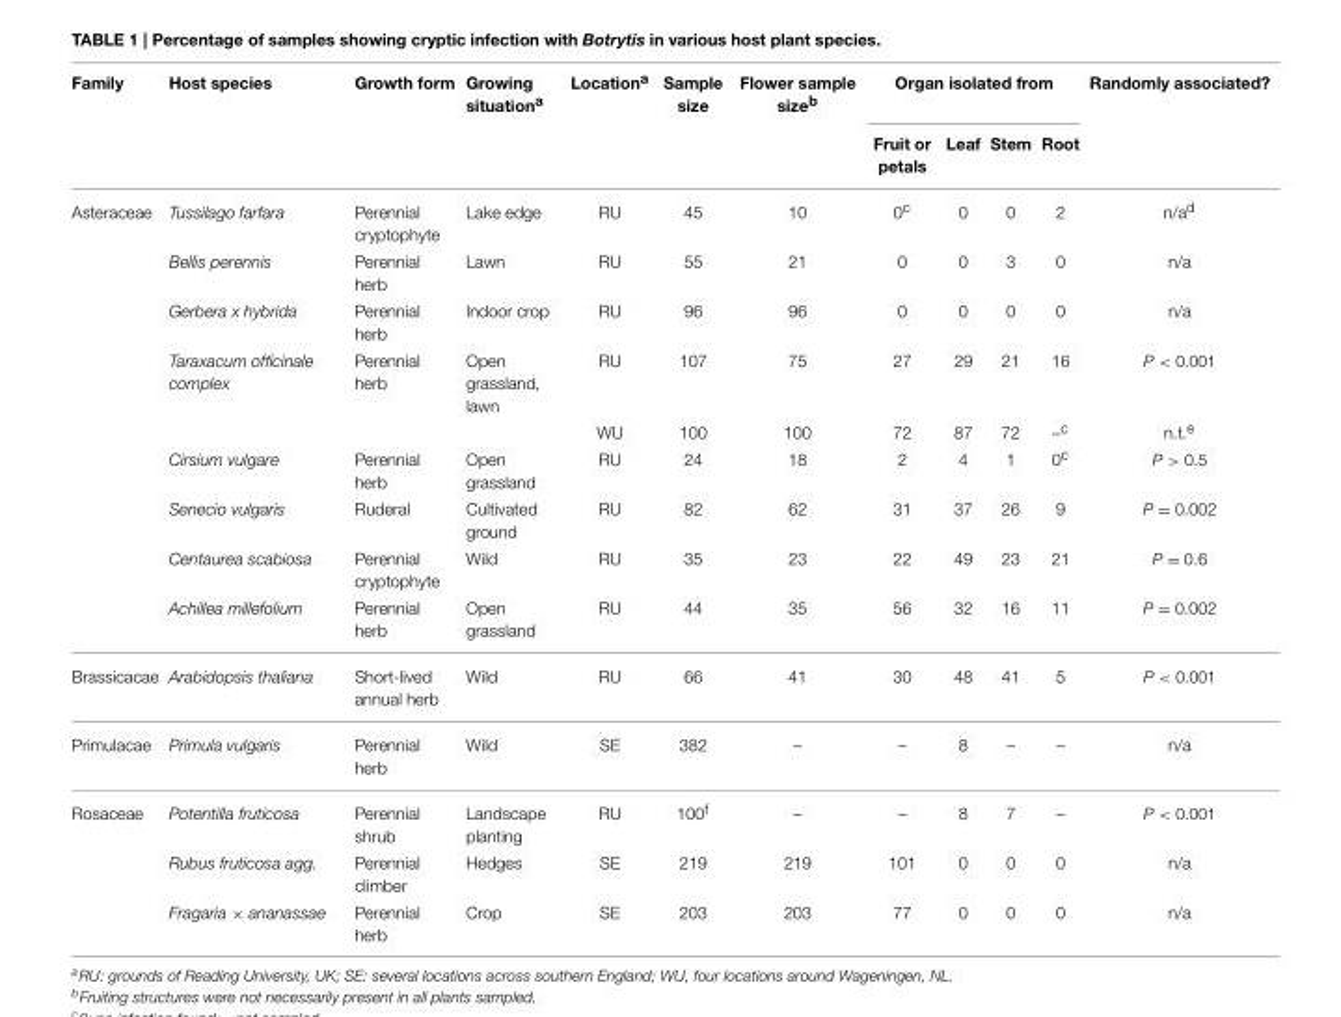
<table><thead><tr><td rowspan="2">Family</td><td rowspan="2">Host species</td><td rowspan="2">Growth form</td><td rowspan="2">Growing situation<sup>a</sup></td><td rowspan="2">Location<sup>a</sup></td><td rowspan="2">Sample size</td><td rowspan="2">Flower sample size<sup>b</sup></td><td colspan="4">Organ isolated from</td><td rowspan="2">Randomly associated?</td></tr><tr><td>Fruit or petals</td><td>Leaf</td><td>Stem</td><td>Root</td></tr></thead><tbody><tr><td rowspan="9">Asteraceae</td><td>Tussilago farfara</td><td>Perennial cryptophyte</td><td>Lake edge</td><td>RU</td><td>45</td><td>10</td><td>0<sup>c</sup></td><td>0</td><td>0</td><td>2</td><td>n/a<sup>d</sup></td></tr><tr><td>Bellis perennis</td><td>Perennial herb</td><td>Lawn</td><td>RU</td><td>55</td><td>21</td><td>0</td><td>0</td><td>3</td><td>0</td><td>n/a</td></tr><tr><td>Gerbera x hybrida</td><td>Perennial herb</td><td>Indoor crop</td><td>RU</td><td>96</td><td>96</td><td>0</td><td>0</td><td>0</td><td>0</td><td>n/a</td></tr><tr><td>Taraxacum officinale complex</td><td>Perennial herb</td><td>Open grassland, lawn</td><td>RU</td><td>107</td><td>75</td><td>27</td><td>29</td><td>21</td><td>16</td><td>P &lt; 0.001</td></tr><tr><td></td><td></td><td></td><td>WU</td><td>100</td><td>100</td><td>72</td><td>87</td><td>72</td><td>–<sup>c</sup></td><td>n.t.<sup>e</sup></td></tr><tr><td>Cirsium vulgare</td><td>Perennial herb</td><td>Open grassland</td><td>RU</td><td>24</td><td>18</td><td>2</td><td>4</td><td>1</td><td>0<sup>c</sup></td><td>P &gt; 0.5</td></tr><tr><td>Senecio vulgaris</td><td>Ruderal</td><td>Cultivated ground</td><td>RU</td><td>82</td><td>62</td><td>31</td><td>37</td><td>26</td><td>9</td><td>P = 0.002</td></tr><tr><td>Centaurea scabiosa</td><td>Perennial cryptophyte</td><td>Wild</td><td>RU</td><td>35</td><td>23</td><td>22</td><td>49</td><td>23</td><td>21</td><td>P = 0.6</td></tr><tr><td>Achillea millefolium</td><td>Perennial herb</td><td>Open grassland</td><td>RU</td><td>44</td><td>35</td><td>56</td><td>32</td><td>16</td><td>11</td><td>P = 0.002</td></tr><tr><td>Brassicacae</td><td>Arabidopsis thaliana</td><td>Short-lived annual herb</td><td>Wild</td><td>RU</td><td>66</td><td>41</td><td>30</td><td>48</td><td>41</td><td>5</td><td>P &lt; 0.001</td></tr><tr><td>Primulacae</td><td>Primula vulgaris</td><td>Perennial herb</td><td>Wild</td><td>SE</td><td>382</td><td>–</td><td>–</td><td>8</td><td>–</td><td>–</td><td>n/a</td></tr><tr><td rowspan="3">Rosaceae</td><td>Potentilla fruticosa</td><td>Perennial shrub</td><td>Landscape planting</td><td>RU</td><td>100<sup>f</sup></td><td>–</td><td>–</td><td>8</td><td>7</td><td>–</td><td>P &lt; 0.001</td></tr><tr><td>Rubus fruticosa agg.</td><td>Perennial climber</td><td>Hedges</td><td>SE</td><td>219</td><td>219</td><td>101</td><td>0</td><td>0</td><td>0</td><td>n/a</td></tr><tr><td>Fragaria × ananassae</td><td>Perennial herb</td><td>Crop</td><td>SE</td><td>203</td><td>203</td><td>77</td><td>0</td><td>0</td><td>0</td><td>n/a</td></tr></tbody></table>